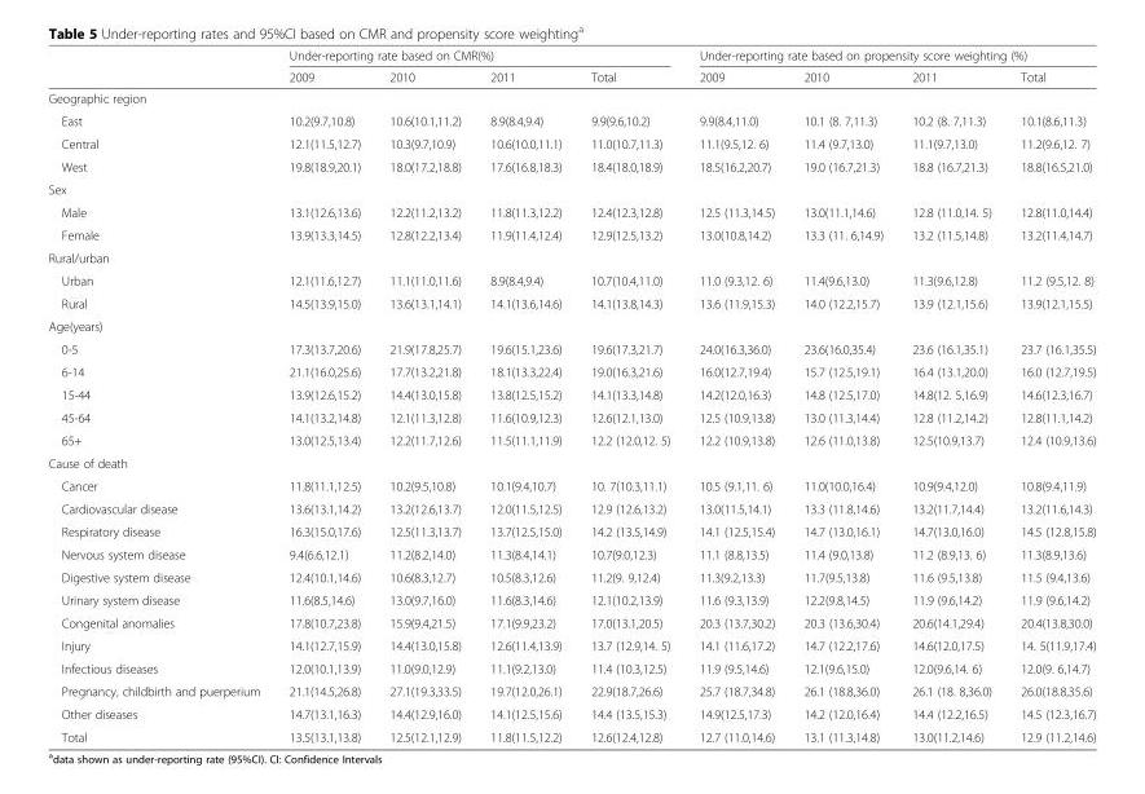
<table><thead><tr><td rowspan="2"></td><td colspan="4">Under-reporting rate based on CMR(%)</td><td colspan="4">Under-reporting rate based on propensity score weighting (%)</td></tr><tr><td>2009</td><td>2010</td><td>2011</td><td>Total</td><td>2009</td><td>2010</td><td>2011</td><td>Total</td></tr></thead><tbody><tr><td colspan="9">Geographic region</td></tr><tr><td>East</td><td>10.2(9.7,10.8)</td><td>10.6(10.1,11.2)</td><td>8.9(8.4,9.4)</td><td>9.9(9.6,10.2)</td><td>9.9(8.4,11.0)</td><td>10.1 (8. 7,11.3)</td><td>10.2 (8. 7,11.3)</td><td>10.1(8.6,11.3)</td></tr><tr><td>Central</td><td>12.1(11.5,12.7)</td><td>10.3(9.7,10.9)</td><td>10.6(10.0,11.1)</td><td>11.0(10.7,11.3)</td><td>11.1(9.5,12. 6)</td><td>11.4 (9.7,13.0)</td><td>11.1(9.7,13.0)</td><td>11.2(9.6,12. 7)</td></tr><tr><td>West</td><td>19.8(18.9,20.1)</td><td>18.0(17.2,18.8)</td><td>17.6(16.8,18.3)</td><td>18.4(18.0,18.9)</td><td>18.5(16.2,20.7)</td><td>19.0 (16.7,21.3)</td><td>18.8 (16.7,21.3)</td><td>18.8(16.5,21.0)</td></tr><tr><td colspan="9">Sex</td></tr><tr><td>Male</td><td>13.1(12.6,13.6)</td><td>12.2(11.2,13.2)</td><td>11.8(11.3,12.2)</td><td>12.4(12.3,12.8)</td><td>12.5 (11.3,14.5)</td><td>13.0(11.1,14.6)</td><td>12.8 (11.0,14. 5)</td><td>12.8(11.0,14.4)</td></tr><tr><td>Female</td><td>13.9(13.3,14.5)</td><td>12.8(12.2,13.4)</td><td>11.9(11.4,12.4)</td><td>12.9(12.5,13.2)</td><td>13.0(10.8,14.2)</td><td>13.3 (11. 6,14.9)</td><td>13.2 (11.5,14.8)</td><td>13.2(11.4,14.7)</td></tr><tr><td colspan="9">Rural/urban</td></tr><tr><td>Urban</td><td>12.1(11.6,12.7)</td><td>11.1(11.0,11.6)</td><td>8.9(8.4,9.4)</td><td>10.7(10.4,11.0)</td><td>11.0 (9.3,12. 6)</td><td>11.4(9.6,13.0)</td><td>11.3(9.6,12.8)</td><td>11.2 (9.5,12. 8)</td></tr><tr><td>Rural</td><td>14.5(13.9,15.0)</td><td>13.6(13.1,14.1)</td><td>14.1(13.6,14.6)</td><td>14.1(13.8,14.3)</td><td>13.6 (11.9,15.3)</td><td>14.0 (12.2,15.7)</td><td>13.9 (12.1,15.6)</td><td>13.9(12.1,15.5)</td></tr><tr><td colspan="9">Age(years)</td></tr><tr><td>0-5</td><td>17.3(13.7,20.6)</td><td>21.9(17.8,25.7)</td><td>19.6(15.1,23.6)</td><td>19.6(17.3,21.7)</td><td>24.0(16.3,36.0)</td><td>23.6(16.0,35.4)</td><td>23.6 (16.1,35.1)</td><td>23.7 (16.1,35.5)</td></tr><tr><td>6-14</td><td>21.1(16.0,25.6)</td><td>17.7(13.2,21.8)</td><td>18.1(13.3,22.4)</td><td>19.0(16.3,21.6)</td><td>16.0(12.7,19.4)</td><td>15.7 (12.5,19.1)</td><td>16.4 (13.1,20.0)</td><td>16.0 (12.7,19.5)</td></tr><tr><td>15-44</td><td>13.9(12.6,15.2)</td><td>14.4(13.0,15.8)</td><td>13.8(12.5,15.2)</td><td>14.1(13.3,14.8)</td><td>14.2(12.0,16.3)</td><td>14.8 (12.5,17.0)</td><td>14.8(12. 5,16.9)</td><td>14.6(12.3,16.7)</td></tr><tr><td>45-64</td><td>14.1(13.2,14.8)</td><td>12.1(11.3,12.8)</td><td>11.6(10.9,12.3)</td><td>12.6(12.1,13.0)</td><td>12.5 (10.9,13.8)</td><td>13.0 (11.3,14.4)</td><td>12.8 (11.2,14.2)</td><td>12.8(11.1,14.2)</td></tr><tr><td>65+</td><td>13.0(12.5,13.4)</td><td>12.2(11.7,12.6)</td><td>11.5(11.1,11.9)</td><td>12.2 (12.0,12. 5)</td><td>12.2 (10.9,13.8)</td><td>12.6 (11.0,13.8)</td><td>12.5(10.9,13.7)</td><td>12.4 (10.9,13.6)</td></tr><tr><td colspan="9">Cause of death</td></tr><tr><td>Cancer</td><td>11.8(11.1,12.5)</td><td>10.2(9.5,10.8)</td><td>10.1(9.4,10.7)</td><td>10. 7(10.3,11.1)</td><td>10.5 (9.1,11. 6)</td><td>11.0(10.0,16.4)</td><td>10.9(9.4,12.0)</td><td>10.8(9.4,11.9)</td></tr><tr><td>Cardiovascular disease</td><td>13.6(13.1,14.2)</td><td>13.2(12.6,13.7)</td><td>12.0(11.5,12.5)</td><td>12.9 (12.6,13.2)</td><td>13.0(11.5,14.1)</td><td>13.3 (11.8,14.6)</td><td>13.2(11.7,14.4)</td><td>13.2(11.6,14.3)</td></tr><tr><td>Respiratory disease</td><td>16.3(15.0,17.6)</td><td>12.5(11.3,13.7)</td><td>13.7(12.5,15.0)</td><td>14.2 (13.5,14.9)</td><td>14.1 (12.5,15.4)</td><td>14.7 (13.0,16.1)</td><td>14.7(13.0,16.0)</td><td>14.5 (12.8,15.8)</td></tr><tr><td>Nervous system disease</td><td>9.4(6.6,12.1)</td><td>11.2(8.2,14.0)</td><td>11.3(8.4,14.1)</td><td>10.7(9.0,12.3)</td><td>11.1 (8.8,13.5)</td><td>11.4 (9.0,13.8)</td><td>11.2 (8.9,13. 6)</td><td>11.3(8.9,13.6)</td></tr><tr><td>Digestive system disease</td><td>12.4(10.1,14.6)</td><td>10.6(8.3,12.7)</td><td>10.5(8.3,12.6)</td><td>11.2(9. 9,12.4)</td><td>11.3(9.2,13.3)</td><td>11.7(9.5,13.8)</td><td>11.6 (9.5,13.8)</td><td>11.5 (9.4,13.6)</td></tr><tr><td>Urinary system disease</td><td>11.6(8.5,14.6)</td><td>13.0(9.7,16.0)</td><td>11.6(8.3,14.6)</td><td>12.1(10.2,13.9)</td><td>11.6 (9.3,13.9)</td><td>12.2(9.8,14.5)</td><td>11.9 (9.6,14.2)</td><td>11.9 (9.6,14.2)</td></tr><tr><td>Congenital anomalies</td><td>17.8(10.7,23.8)</td><td>15.9(9.4,21.5)</td><td>17.1(9.9,23.2)</td><td>17.0(13.1,20.5)</td><td>20.3 (13.7,30.2)</td><td>20.3 (13.6,30.4)</td><td>20.6(14.1,29.4)</td><td>20.4(13.8,30.0)</td></tr><tr><td>Injury</td><td>14.1(12.7,15.9)</td><td>14.4(13.0,15.8)</td><td>12.6(11.4,13.9)</td><td>13.7 (12.9,14. 5)</td><td>14.1 (11.6,17.2)</td><td>14.7 (12.2,17.6)</td><td>14.6(12.0,17.5)</td><td>14. 5(11.9,17.4)</td></tr><tr><td>Infectious diseases</td><td>12.0(10.1,13.9)</td><td>11.0(9.0,12.9)</td><td>11.1(9.2,13.0)</td><td>11.4 (10.3,12.5)</td><td>11.9 (9.5,14.6)</td><td>12.1(9.6,15.0)</td><td>12.0(9.6,14. 6)</td><td>12.0(9. 6,14.7)</td></tr><tr><td>Pregnancy, childbirth and puerperium</td><td>21.1(14.5,26.8)</td><td>27.1(19.3,33.5)</td><td>19.7(12.0,26.1)</td><td>22.9(18.7,26.6)</td><td>25.7 (18.7,34.8)</td><td>26.1 (18.8,36.0)</td><td>26.1 (18. 8,36.0)</td><td>26.0(18.8,35.6)</td></tr><tr><td>Other diseases</td><td>14.7(13.1,16.3)</td><td>14.4(12.9,16.0)</td><td>14.1(12.5,15.6)</td><td>14.4 (13.5,15.3)</td><td>14.9(12.5,17.3)</td><td>14.2 (12.0,16.4)</td><td>14.4 (12.2,16.5)</td><td>14.5 (12.3,16.7)</td></tr><tr><td>Total</td><td>13.5(13.1,13.8)</td><td>12.5(12.1,12.9)</td><td>11.8(11.5,12.2)</td><td>12.6(12.4,12.8)</td><td>12.7 (11.0,14.6)</td><td>13.1 (11.3,14.8)</td><td>13.0(11.2,14.6)</td><td>12.9 (11.2,14.6)</td></tr></tbody></table>